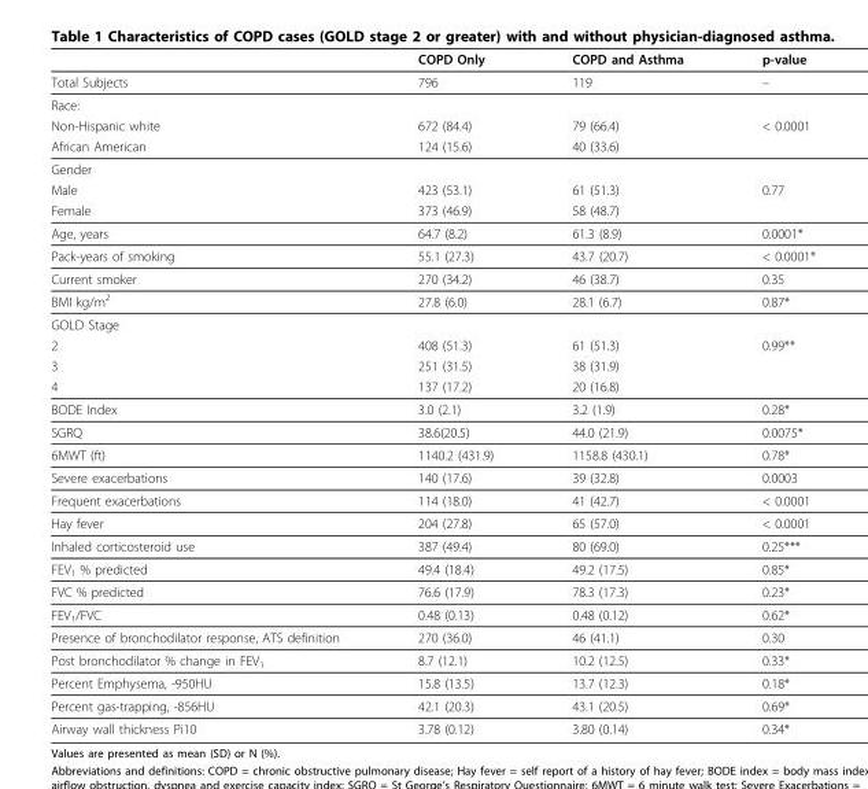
<table><thead><tr><td></td><td>COPD Only</td><td>COPD and Asthma</td><td>p-value</td></tr></thead><tbody><tr><td>Total Subjects</td><td>796</td><td>119</td><td>–</td></tr><tr><td colspan="4">Race:</td></tr><tr><td>Non-Hispanic white</td><td>672 (84.4)</td><td>79 (66.4)</td><td>&lt; 0.0001</td></tr><tr><td>African American</td><td>124 (15.6)</td><td>40 (33.6)</td><td></td></tr><tr><td colspan="4">Gender</td></tr><tr><td>Male</td><td>423 (53.1)</td><td>61 (51.3)</td><td>0.77</td></tr><tr><td>Female</td><td>373 (46.9)</td><td>58 (48.7)</td><td></td></tr><tr><td>Age, years</td><td>64.7 (8.2)</td><td>61.3 (8.9)</td><td>0.0001*</td></tr><tr><td>Pack-years of smoking</td><td>55.1 (27.3)</td><td>43.7 (20.7)</td><td>&lt; 0.0001*</td></tr><tr><td>Current smoker</td><td>270 (34.2)</td><td>46 (38.7)</td><td>0.35</td></tr><tr><td>BMI kg/m<sup>2</sup></td><td>27.8 (6.0)</td><td>28.1 (6.7)</td><td>0.87*</td></tr><tr><td colspan="4">GOLD Stage</td></tr><tr><td>2</td><td>408 (51.3)</td><td>61 (51.3)</td><td>0.99**</td></tr><tr><td>3</td><td>251 (31.5)</td><td>38 (31.9)</td><td></td></tr><tr><td>4</td><td>137 (17.2)</td><td>20 (16.8)</td><td></td></tr><tr><td>BODE Index</td><td>3.0 (2.1)</td><td>3.2 (1.9)</td><td>0.28*</td></tr><tr><td>SGRQ</td><td>38.6(20.5)</td><td>44.0 (21.9)</td><td>0.0075*</td></tr><tr><td>6MWT (ft)</td><td>1140.2 (431.9)</td><td>1158.8 (430.1)</td><td>0.78*</td></tr><tr><td>Severe exacerbations</td><td>140 (17.6)</td><td>39 (32.8)</td><td>0.0003</td></tr><tr><td>Frequent exacerbations</td><td>114 (18.0)</td><td>41 (42.7)</td><td>&lt; 0.0001</td></tr><tr><td>Hay fever</td><td>204 (27.8)</td><td>65 (57.0)</td><td>&lt; 0.0001</td></tr><tr><td>Inhaled corticosteroid use</td><td>387 (49.4)</td><td>80 (69.0)</td><td>0.25***</td></tr><tr><td>FEV<sub>1</sub> % predicted</td><td>49.4 (18.4)</td><td>49.2 (17.5)</td><td>0.85*</td></tr><tr><td>FVC % predicted</td><td>76.6 (17.9)</td><td>78.3 (17.3)</td><td>0.23*</td></tr><tr><td>FEV<sub>1</sub>/FVC</td><td>0.48 (0.13)</td><td>0.48 (0.12)</td><td>0.62*</td></tr><tr><td>Presence of bronchodilator response, ATS definition</td><td>270 (36.0)</td><td>46 (41.1)</td><td>0.30</td></tr><tr><td>Post bronchodilator % change in FEV<sub>1</sub></td><td>8.7 (12.1)</td><td>10.2 (12.5)</td><td>0.33*</td></tr><tr><td>Percent Emphysema, -950HU</td><td>15.8 (13.5)</td><td>13.7 (12.3)</td><td>0.18*</td></tr><tr><td>Percent gas-trapping, -856HU</td><td>42.1 (20.3)</td><td>43.1 (20.5)</td><td>0.69*</td></tr><tr><td>Airway wall thickness Pi10</td><td>3.78 (0.12)</td><td>3.80 (0.14)</td><td>0.34*</td></tr></tbody></table>